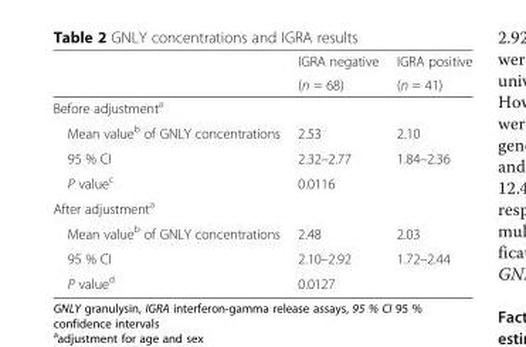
<table><thead><tr><td rowspan="2"></td><td rowspan="2">IGRA negative (n = 68)</td><td rowspan="2">IGRA positive (n = 41)</td></tr><tr></tr></thead><tbody><tr><td colspan="3">Before adjustment<sup>a</sup></td></tr><tr><td>Mean value<sup>b</sup> of GNLY concentrations</td><td>2.53</td><td>2.10</td></tr><tr><td>95 % CI</td><td>2.32–2.77</td><td>1.84–2.36</td></tr><tr><td>P value<sup>c</sup></td><td>0.0116</td><td></td></tr><tr><td colspan="3">After adjustment<sup>a</sup></td></tr><tr><td>Mean value<sup>b</sup> of GNLY concentrations</td><td>2.48</td><td>2.03</td></tr><tr><td>95 % CI</td><td>2.10–2.92</td><td>1.72–2.44</td></tr><tr><td>P value<sup>d</sup></td><td>0.0127</td><td></td></tr></tbody></table>